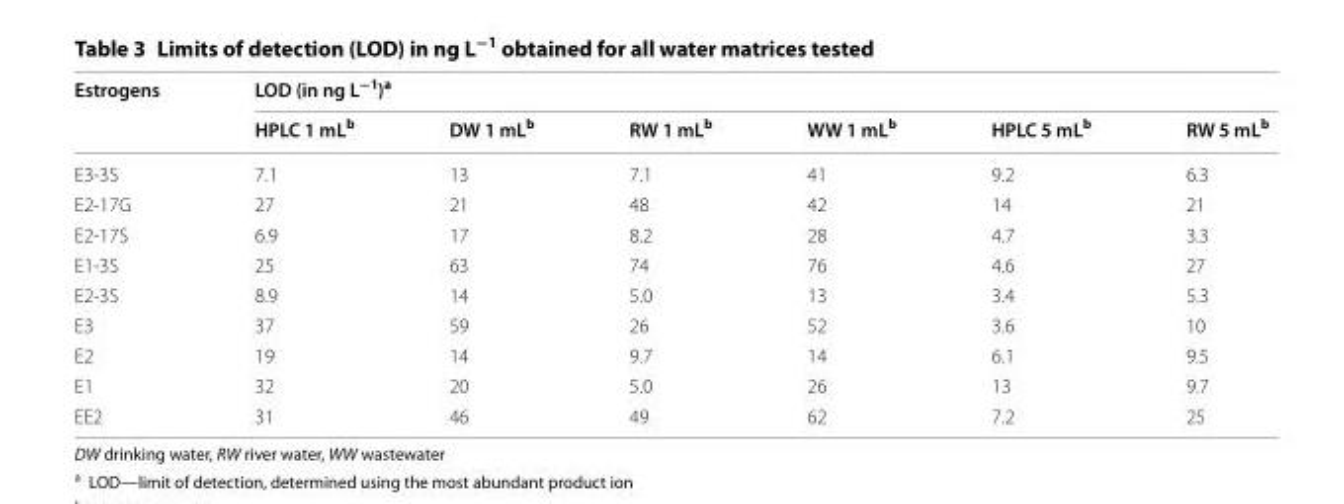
<table><thead><tr><td rowspan="2">Estrogens</td><td colspan="6">LOD (in ng L<sup>−1</sup>)<sup>a</sup></td></tr><tr><td>HPLC 1 mL<sup>b</sup></td><td>DW 1 mL<sup>b</sup></td><td>RW 1 mL<sup>b</sup></td><td>WW 1 mL<sup>b</sup></td><td>HPLC 5 mL<sup>b</sup></td><td>RW 5 mL<sup>b</sup></td></tr></thead><tbody><tr><td>E3-3S</td><td>7.1</td><td>13</td><td>7.1</td><td>41</td><td>9.2</td><td>6.3</td></tr><tr><td>E2-17G</td><td>27</td><td>21</td><td>48</td><td>42</td><td>14</td><td>21</td></tr><tr><td>E2-17S</td><td>6.9</td><td>17</td><td>8.2</td><td>28</td><td>4.7</td><td>3.3</td></tr><tr><td>E1-3S</td><td>25</td><td>63</td><td>74</td><td>76</td><td>4.6</td><td>27</td></tr><tr><td>E2-3S</td><td>8.9</td><td>14</td><td>5.0</td><td>13</td><td>3.4</td><td>5.3</td></tr><tr><td>E3</td><td>37</td><td>59</td><td>26</td><td>52</td><td>3.6</td><td>10</td></tr><tr><td>E2</td><td>19</td><td>14</td><td>9.7</td><td>14</td><td>6.1</td><td>9.5</td></tr><tr><td>E1</td><td>32</td><td>20</td><td>5.0</td><td>26</td><td>13</td><td>9.7</td></tr><tr><td>EE2</td><td>31</td><td>46</td><td>49</td><td>62</td><td>7.2</td><td>25</td></tr></tbody></table>